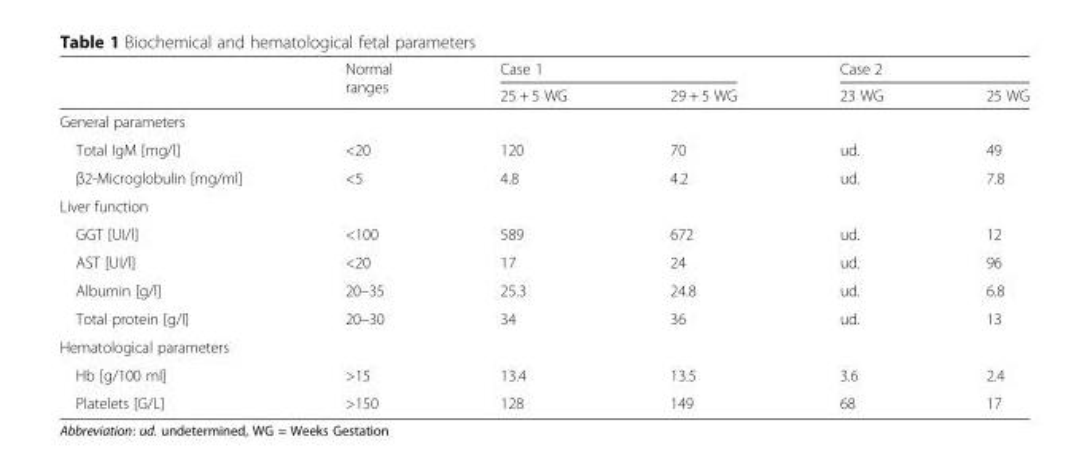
<table><thead><tr><td rowspan="2"></td><td rowspan="2">Normal ranges</td><td colspan="2">Case 1</td><td colspan="2">Case 2</td></tr><tr><td>25 + 5 WG</td><td>29 + 5 WG</td><td>23 WG</td><td>25 WG</td></tr></thead><tbody><tr><td colspan="6">General parameters</td></tr><tr><td>Total IgM [mg/l]</td><td>&lt;20</td><td>120</td><td>70</td><td>ud.</td><td>49</td></tr><tr><td>β2-Microglobulin [mg/ml]</td><td>&lt;5</td><td>4.8</td><td>4.2</td><td>ud.</td><td>7.8</td></tr><tr><td colspan="6">Liver function</td></tr><tr><td>GGT [UI/l]</td><td>&lt;100</td><td>589</td><td>672</td><td>ud.</td><td>12</td></tr><tr><td>AST [UI/l]</td><td>&lt;20</td><td>17</td><td>24</td><td>ud.</td><td>96</td></tr><tr><td>Albumin [g/l]</td><td>20–35</td><td>25.3</td><td>24.8</td><td>ud.</td><td>6.8</td></tr><tr><td>Total protein [g/l]</td><td>20–30</td><td>34</td><td>36</td><td>ud.</td><td>13</td></tr><tr><td colspan="6">Hematological parameters</td></tr><tr><td>Hb [g/100 ml]</td><td>&gt;15</td><td>13.4</td><td>13.5</td><td>3.6</td><td>2.4</td></tr><tr><td>Platelets [G/L]</td><td>&gt;150</td><td>128</td><td>149</td><td>68</td><td>17</td></tr></tbody></table>